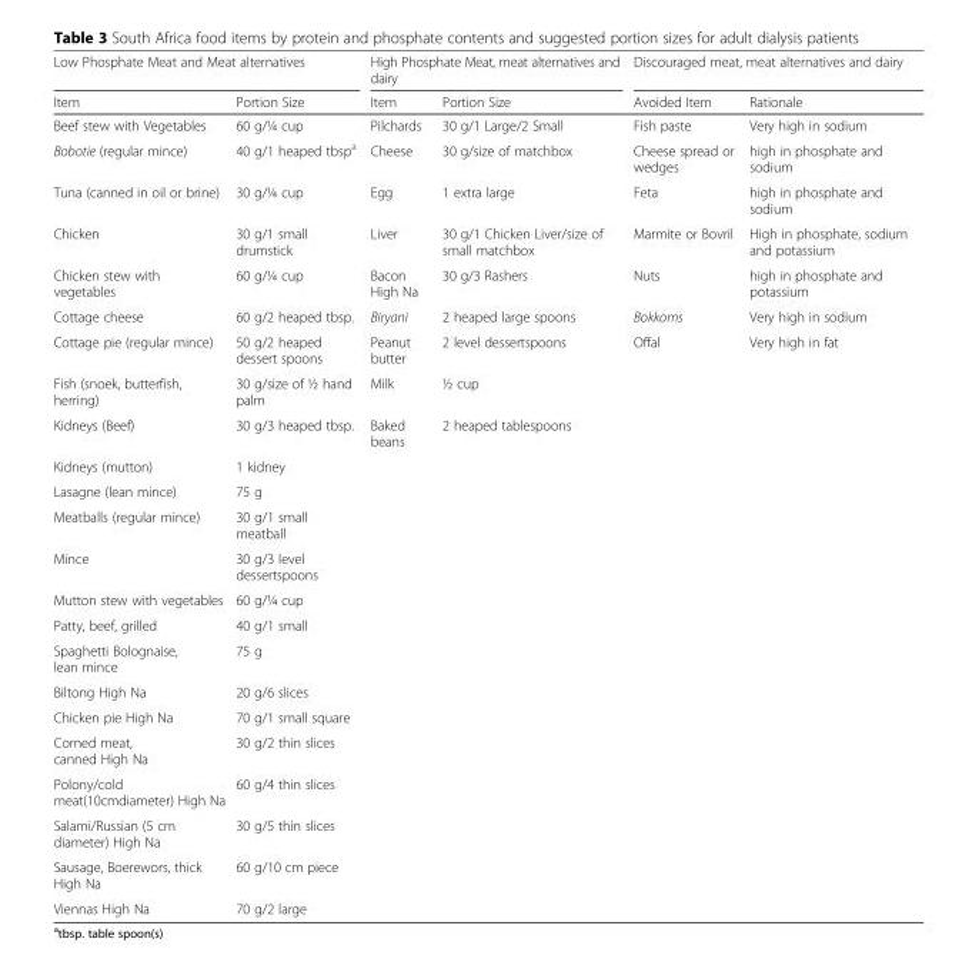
<table><thead><tr><td colspan="2">Low Phosphate Meat and Meat alternatives</td><td colspan="2">High Phosphate Meat, meat alternatives and dairy</td><td colspan="2">Discouraged meat, meat alternatives and dairy</td></tr><tr><td>Item</td><td>Portion Size</td><td>Item</td><td>Portion Size</td><td>Avoided Item</td><td>Rationale</td></tr></thead><tbody><tr><td>Beef stew with Vegetables</td><td>60 g/¼ cup</td><td>Pilchards</td><td>30 g/1 Large/2 Small</td><td>Fish paste</td><td>Very high in sodium</td></tr><tr><td>Bobotie (regular mince)</td><td>40 g/1 heaped tbsp<sup>a</sup></td><td>Cheese</td><td>30 g/size of matchbox</td><td>Cheese spread or wedges</td><td>high in phosphate and sodium</td></tr><tr><td>Tuna (canned in oil or brine)</td><td>30 g/¼ cup</td><td>Egg</td><td>1 extra large</td><td>Feta</td><td>high in phosphate and sodium</td></tr><tr><td>Chicken</td><td>30 g/1 small drumstick</td><td>Liver</td><td>30 g/1 Chicken Liver/size of small matchbox</td><td>Marmite or Bovril</td><td>High in phosphate, sodium and potassium</td></tr><tr><td>Chicken stew with vegetables</td><td>60 g/¼ cup</td><td>Bacon High Na</td><td>30 g/3 Rashers</td><td>Nuts</td><td>high in phosphate and potassium</td></tr><tr><td>Cottage cheese</td><td>60 g/2 heaped tbsp.</td><td>Biryani</td><td>2 heaped large spoons</td><td>Bokkoms</td><td>Very high in sodium</td></tr><tr><td>Cottage pie (regular mince)</td><td>50 g/2 heaped dessert spoons</td><td>Peanut butter</td><td>2 level dessertspoons</td><td>Offal</td><td>Very high in fat</td></tr><tr><td>Fish (snoek, butterfish, herring)</td><td>30 g/size of ½ hand palm</td><td>Milk</td><td>½ cup</td><td></td><td></td></tr><tr><td>Kidneys (Beef)</td><td>30 g/3 heaped tbsp.</td><td>Baked beans</td><td>2 heaped tablespoons</td><td></td><td></td></tr><tr><td>Kidneys (mutton)</td><td>1 kidney</td><td></td><td></td><td></td><td></td></tr><tr><td>Lasagne (lean mince)</td><td>75 g</td><td></td><td></td><td></td><td></td></tr><tr><td>Meatballs (regular mince)</td><td>30 g/1 small meatball</td><td></td><td></td><td></td><td></td></tr><tr><td>Mince</td><td>30 g/3 level dessertspoons</td><td></td><td></td><td></td><td></td></tr><tr><td>Mutton stew with vegetables</td><td>60 g/¼ cup</td><td></td><td></td><td></td><td></td></tr><tr><td>Patty, beef, grilled</td><td>40 g/1 small</td><td></td><td></td><td></td><td></td></tr><tr><td>Spaghetti Bolognaise, lean mince</td><td>75 g</td><td></td><td></td><td></td><td></td></tr><tr><td>Biltong High Na</td><td>20 g/6 slices</td><td></td><td></td><td></td><td></td></tr><tr><td>Chicken pie High Na</td><td>70 g/1 small square</td><td></td><td></td><td></td><td></td></tr><tr><td>Corned meat, canned High Na</td><td>30 g/2 thin slices</td><td></td><td></td><td></td><td></td></tr><tr><td>Polony/cold meat(10cmdiameter) High Na</td><td>60 g/4 thin slices</td><td></td><td></td><td></td><td></td></tr><tr><td>Salami/Russian (5 cm diameter) High Na</td><td>30 g/5 thin slices</td><td></td><td></td><td></td><td></td></tr><tr><td>Sausage, Boerewors, thick High Na</td><td>60 g/10 cm piece</td><td></td><td></td><td></td><td></td></tr><tr><td>Viennas High Na</td><td>70 g/2 large</td><td></td><td></td><td></td><td></td></tr></tbody></table>